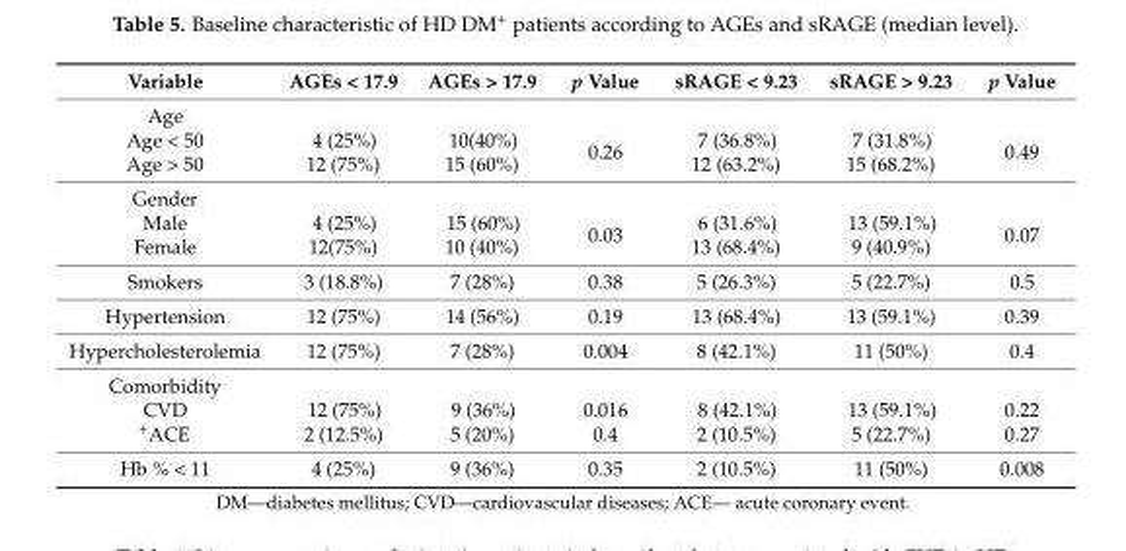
<table><thead><tr><td>Variable</td><td>AGEs &lt; 17.9</td><td>AGEs &gt; 17.9</td><td>p Value</td><td>sRAGE &lt; 9.23</td><td>sRAGE &gt; 9.23</td><td>p Value</td></tr></thead><tbody><tr><td colspan="7">Age</td></tr><tr><td>Age &lt; 50 Age &gt; 50</td><td>4 (25%) 12 (75%)</td><td>10(40%) 15 (60%)</td><td>0.26</td><td>7 (36.8%) 12 (63.2%)</td><td>7 (31.8%) 15 (68.2%)</td><td>0.49</td></tr><tr><td colspan="7">Gender</td></tr><tr><td>Male Female</td><td>4 (25%) 12(75%)</td><td>15 (60%) 10 (40%)</td><td>0.03</td><td>6 (31.6%) 13 (68.4%)</td><td>13 (59.1%) 9 (40.9%)</td><td>0.07</td></tr><tr><td>Smokers</td><td>3 (18.8%)</td><td>7 (28%)</td><td>0.38</td><td>5 (26.3%)</td><td>5 (22.7%)</td><td>0.5</td></tr><tr><td>Hypertension</td><td>12 (75%)</td><td>14 (56%)</td><td>0.19</td><td>13 (68.4%)</td><td>13 (59.1%)</td><td>0.39</td></tr><tr><td>Hypercholesterolemia</td><td>12 (75%)</td><td>7 (28%)</td><td>0.004</td><td>8 (42.1%)</td><td>11 (50%)</td><td>0.4</td></tr><tr><td colspan="7">Comorbidity</td></tr><tr><td>CVD <sup>+</sup>ACE</td><td>12 (75%) 2 (12.5%)</td><td>9 (36%) 5 (20%)</td><td>0.016 0.4</td><td>8 (42.1%) 2 (10.5%)</td><td>13 (59.1%) 5 (22.7%)</td><td>0.22 0.27</td></tr><tr><td>Hb % &lt; 11</td><td>4 (25%)</td><td>9 (36%)</td><td>0.35</td><td>2 (10.5%)</td><td>11 (50%)</td><td>0.008</td></tr></tbody></table>